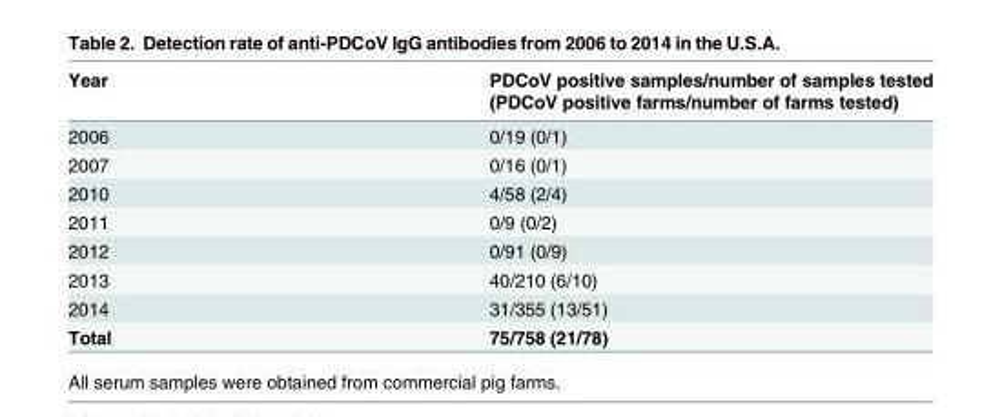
<table><thead><tr><td rowspan="2">Year</td><td rowspan="2">PDCoV positive samples/number of samples tested (PDCoV positive farms/number of farms tested)</td></tr><tr></tr></thead><tbody><tr><td>2006</td><td>0/19 (0/1)</td></tr><tr><td>2007</td><td>0/16 (0/1)</td></tr><tr><td>2010</td><td>4/58 (2/4)</td></tr><tr><td>2011</td><td>0/9 (0/2)</td></tr><tr><td>2012</td><td>0/91 (0/9)</td></tr><tr><td>2013</td><td>40/210 (6/10)</td></tr><tr><td>2014</td><td>31/355 (13/51)</td></tr><tr><td>Total</td><td>75/758 (21/78)</td></tr></tbody></table>